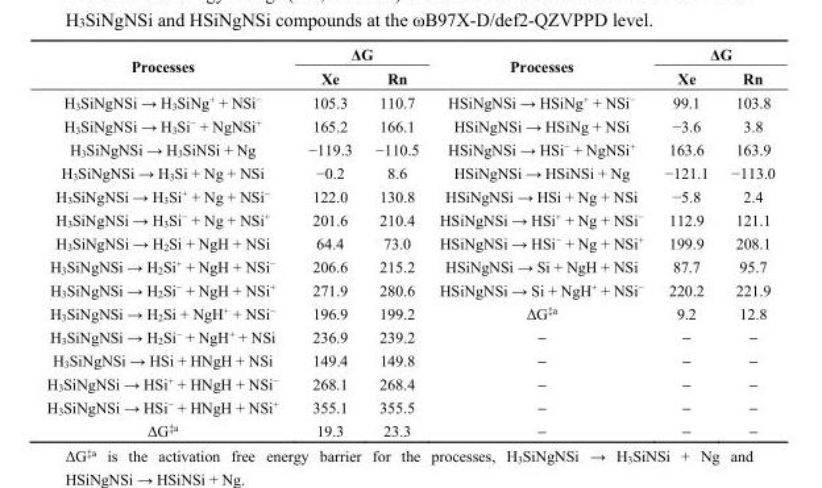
<table><thead><tr><td rowspan="2">Processes</td><td colspan="2">ΔG</td><td rowspan="2">Processes</td><td colspan="2">ΔG</td></tr><tr><td>Xe</td><td>Rn</td><td>Xe</td><td>Rn</td></tr></thead><tbody><tr><td>H<sub>3</sub>SiNgNSi → H<sub>3</sub>SiNg<sup>+</sup> + NSi<sup>−</sup></td><td>105.3</td><td>110.7</td><td>HSiNgNSi → HSiNg<sup>+</sup> + NSi<sup>−</sup></td><td>99.1</td><td>103.8</td></tr><tr><td>H<sub>3</sub>SiNgNSi → H<sub>3</sub>Si<sup>−</sup> + NgNSi<sup>+</sup></td><td>165.2</td><td>166.1</td><td>HSiNgNSi → HSiNg + NSi</td><td>−3.6</td><td>3.8</td></tr><tr><td>H<sub>3</sub>SiNgNSi → H<sub>3</sub>SiNSi + Ng</td><td>−119.3</td><td>−110.5</td><td>HSiNgNSi → HSi<sup>−</sup> + NgNSi<sup>+</sup></td><td>163.6</td><td>163.9</td></tr><tr><td>H<sub>3</sub>SiNgNSi → H<sub>3</sub>Si + Ng + NSi</td><td>−0.2</td><td>8.6</td><td>HSiNgNSi → HSiNSi + Ng</td><td>−121.1</td><td>−113.0</td></tr><tr><td>H<sub>3</sub>SiNgNSi → H<sub>3</sub>Si<sup>+</sup> + Ng + NSi<sup>−</sup></td><td>122.0</td><td>130.8</td><td>HSiNgNSi → HSi + Ng + NSi</td><td>−5.8</td><td>2.4</td></tr><tr><td>H<sub>3</sub>SiNgNSi → H<sub>3</sub>Si<sup>−</sup> + Ng + NSi<sup>+</sup></td><td>201.6</td><td>210.4</td><td>HSiNgNSi → HSi<sup>+</sup> + Ng + NSi<sup>−</sup></td><td>112.9</td><td>121.1</td></tr><tr><td>H<sub>3</sub>SiNgNSi → H<sub>2</sub>Si + NgH + NSi</td><td>64.4</td><td>73.0</td><td>HSiNgNSi → HSi<sup>−</sup> + Ng + NSi<sup>+</sup></td><td>199.9</td><td>208.1</td></tr><tr><td>H<sub>3</sub>SiNgNSi → H<sub>2</sub>Si<sup>+</sup> + NgH + NSi<sup>−</sup></td><td>206.6</td><td>215.2</td><td>HSiNgNSi → Si + NgH + NSi</td><td>87.7</td><td>95.7</td></tr><tr><td>H<sub>3</sub>SiNgNSi → H<sub>2</sub>Si<sup>−</sup> + NgH + NSi<sup>+</sup></td><td>271.9</td><td>280.6</td><td>HSiNgNSi → Si + NgH<sup>+</sup> + NSi<sup>−</sup></td><td>220.2</td><td>221.9</td></tr><tr><td>H<sub>3</sub>SiNgNSi → H<sub>2</sub>Si + NgH<sup>+</sup> + NSi<sup>−</sup></td><td>196.9</td><td>199.2</td><td>ΔG<sup>‡a</sup></td><td>9.2</td><td>12.8</td></tr><tr><td>H<sub>3</sub>SiNgNSi → H<sub>2</sub>Si<sup>−</sup> + NgH<sup>+</sup> + NSi</td><td>236.9</td><td>239.2</td><td>−</td><td>−</td><td>−</td></tr><tr><td>H<sub>3</sub>SiNgNSi → HSi + HNgH + NSi</td><td>149.4</td><td>149.8</td><td>−</td><td>−</td><td>−</td></tr><tr><td>H<sub>3</sub>SiNgNSi → HSi<sup>+</sup> + HNgH + NSi<sup>−</sup></td><td>268.1</td><td>268.4</td><td>−</td><td>−</td><td>−</td></tr><tr><td>H<sub>3</sub>SiNgNSi → HSi<sup>−</sup> + HNgH + NSi<sup>+</sup></td><td>355.1</td><td>355.5</td><td>−</td><td>−</td><td>−</td></tr><tr><td>ΔG<sup>‡a</sup></td><td>19.3</td><td>23.3</td><td>−</td><td>−</td><td>−</td></tr></tbody></table>